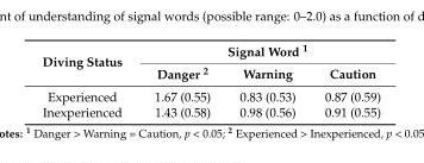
<table><thead><tr><td rowspan="2">Diving Status</td><td colspan="3">Signal Word <sup>1</sup></td></tr><tr><td>Danger <sup>2</sup></td><td>Warning</td><td>Caution</td></tr></thead><tbody><tr><td>Experienced</td><td>1.67 (0.55)</td><td>0.83 (0.53)</td><td>0.87 (0.59)</td></tr><tr><td>Inexperienced</td><td>1.43 (0.58)</td><td>0.98 (0.56)</td><td>0.91 (0.55)</td></tr></tbody></table>